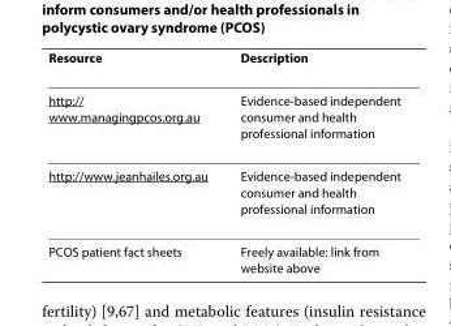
<table><thead><tr><td>Resource</td><td>Description</td></tr></thead><tbody><tr><td>http:// www.managingpcos.org.au</td><td>Evidence-based independent consumer and health professional information</td></tr><tr><td>http://www.jeanhailes.org.au</td><td>Evidence-based independent consumer and health professional information</td></tr><tr><td>PCOS patient fact sheets</td><td>Freely available: link from website above</td></tr></tbody></table>